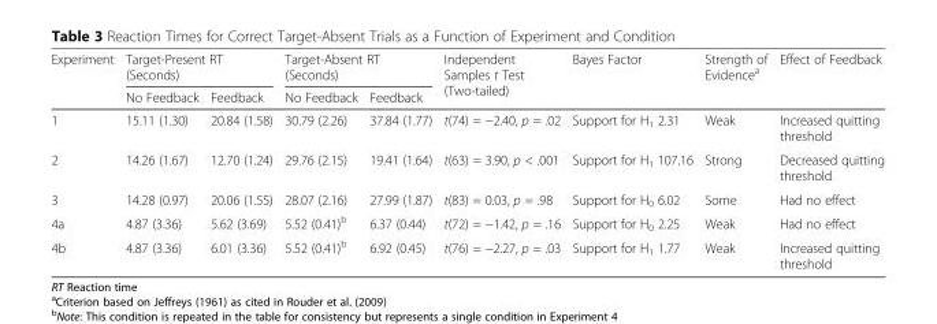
<table><thead><tr><td rowspan="2">Experiment</td><td colspan="2">Target-Present RT (Seconds)</td><td colspan="2">Target-Absent RT (Seconds)</td><td rowspan="2">Independent Samples t Test (Two-tailed)</td><td rowspan="2">Bayes Factor</td><td rowspan="2">Strength of Evidence<sup>a</sup></td><td rowspan="2">Effect of Feedback</td></tr><tr><td>No Feedback</td><td>Feedback</td><td>No Feedback</td><td>Feedback</td></tr></thead><tbody><tr><td>1</td><td>15.11 (1.30)</td><td>20.84 (1.58)</td><td>30.79 (2.26)</td><td>37.84 (1.77)</td><td>t(74) = −2.40, p = .02</td><td>Support for H<sub>1</sub> 2.31</td><td>Weak</td><td>Increased quitting threshold</td></tr><tr><td>2</td><td>14.26 (1.67)</td><td>12.70 (1.24)</td><td>29.76 (2.15)</td><td>19.41 (1.64)</td><td>t(63) = 3.90, p &lt; .001</td><td>Support for H<sub>1</sub> 107.16</td><td>Strong</td><td>Decreased quitting threshold</td></tr><tr><td>3</td><td>14.28 (0.97)</td><td>20.06 (1.55)</td><td>28.07 (2.16)</td><td>27.99 (1.87)</td><td>t(83) = 0.03, p = .98</td><td>Support for H<sub>0</sub> 6.02</td><td>Some</td><td>Had no effect</td></tr><tr><td>4a</td><td>4.87 (3.36)</td><td>5.62 (3.69)</td><td>5.52 (0.41)<sup>b</sup></td><td>6.37 (0.44)</td><td>t(72) = −1.42, p = .16</td><td>Support for H<sub>0</sub> 2.25</td><td>Weak</td><td>Had no effect</td></tr><tr><td>4b</td><td>4.87 (3.36)</td><td>6.01 (3.36)</td><td>5.52 (0.41)<sup>b</sup></td><td>6.92 (0.45)</td><td>t(76) = −2.27, p = .03</td><td>Support for H<sub>1</sub> 1.77</td><td>Weak</td><td>Increased quitting threshold</td></tr></tbody></table>